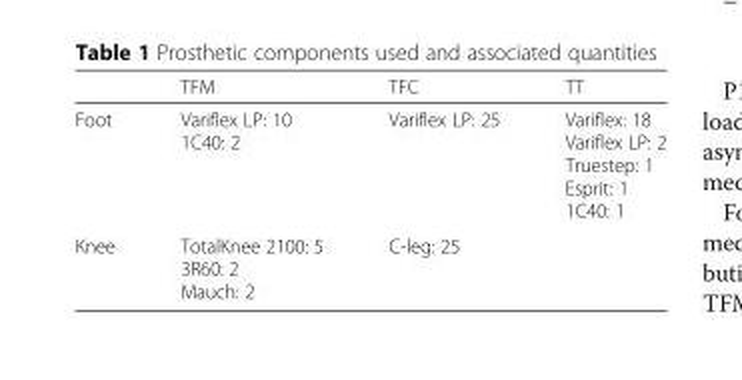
<table><thead><tr><td></td><td>TFM</td><td>TFC</td><td>TT</td></tr></thead><tbody><tr><td>Foot</td><td>Variflex LP: 10 1C40: 2</td><td>Variflex LP: 25</td><td>Variflex: 18 Variflex LP: 2 Truestep: 1 Esprit: 1 1C40: 1</td></tr><tr><td>Knee</td><td>TotalKnee 2100: 5 3R60: 2 Mauch: 2</td><td>C-leg: 25</td><td></td></tr></tbody></table>